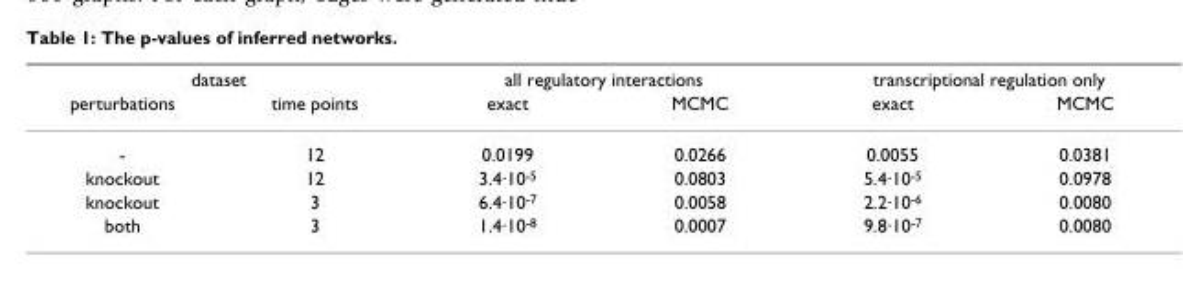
<table><thead><tr><td colspan="2">dataset</td><td colspan="2">all regulatory interactions</td><td colspan="2">transcriptional regulation only</td></tr><tr><td>perturbations</td><td>time points</td><td>exact</td><td>MCMC</td><td>exact</td><td>MCMC</td></tr></thead><tbody><tr><td>-</td><td>12</td><td>0.0199</td><td>0.0266</td><td>0.0055</td><td>0.0381</td></tr><tr><td>knockout</td><td>12</td><td>3.4·10-5</td><td>0.0803</td><td>5.4·10-5</td><td>0.0978</td></tr><tr><td>knockout</td><td>3</td><td>6.4·10-7</td><td>0.0058</td><td>2.2·10-6</td><td>0.0080</td></tr><tr><td>both</td><td>3</td><td>1.4·10-8</td><td>0.0007</td><td>9.8·10-7</td><td>0.0080</td></tr></tbody></table>